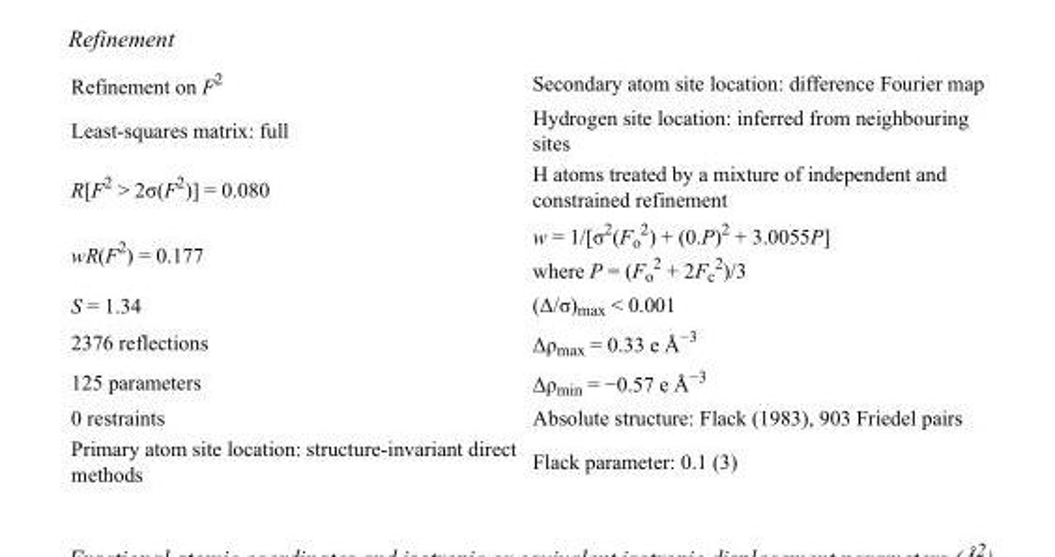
<table><tbody><tr><td>Refinement on F<sup>2</sup></td><td>Secondary atom site location: difference Fourier map</td></tr><tr><td>Least-squares matrix: full</td><td>Hydrogen site location: inferred from neighbouring sites</td></tr><tr><td>R[F<sup>2</sup> &gt; 2σ(F<sup>2</sup>)] = 0.080</td><td>H atoms treated by a mixture of independent and constrained refinement</td></tr><tr><td>wR(F<sup>2</sup>) = 0.177</td><td>w = 1/[σ<sup>2</sup>(F<sub>o</sub> <sup>2</sup>) + (0.P)<sup>2</sup> + 3.0055P] where P = (F<sub>o</sub> <sup>2</sup> + 2F<sub>c</sub> <sup>2</sup>)/3</td></tr><tr><td>S = 1.34</td><td>(Δ/σ)<sub>max</sub> &lt; 0.001</td></tr><tr><td>2376 reflections</td><td>Δρ<sub>max</sub> = 0.33 e Å<sup>−3</sup></td></tr><tr><td>125 parameters</td><td>Δρ<sub>min</sub> = −0.57 e Å<sup>−3</sup></td></tr><tr><td>0 restraints</td><td>Absolute structure: Flack (1983), 903 Friedel pairs</td></tr><tr><td>Primary atom site location: structure-invariant direct methods</td><td>Flack parameter: 0.1 (3)</td></tr></tbody></table>